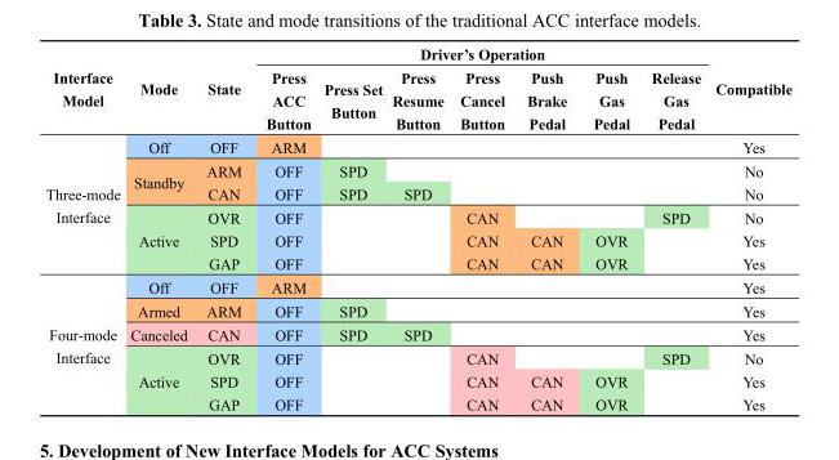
<table><thead><tr><td rowspan="2">Interface Model</td><td rowspan="2">Mode</td><td rowspan="2">State</td><td colspan="7">Driver’s Operation</td><td rowspan="2">Compatible</td></tr><tr><td>Press ACC Button</td><td>Press Set Button</td><td>Press Resume Button</td><td>Press Cancel Button</td><td>Push Brake Pedal</td><td>Push Gas Pedal</td><td>Release Gas Pedal</td></tr></thead><tbody><tr><td rowspan="6">Three-mode Interface</td><td>Off</td><td>OFF</td><td>ARM</td><td></td><td></td><td></td><td></td><td></td><td></td><td>Yes</td></tr><tr><td rowspan="2">Standby</td><td>ARM</td><td>OFF</td><td>SPD</td><td></td><td></td><td></td><td></td><td></td><td>No</td></tr><tr><td>CAN</td><td>OFF</td><td>SPD</td><td>SPD</td><td></td><td></td><td></td><td></td><td>No</td></tr><tr><td rowspan="3">Active</td><td>OVR</td><td>OFF</td><td></td><td></td><td>CAN</td><td></td><td></td><td>SPD</td><td>No</td></tr><tr><td>SPD</td><td>OFF</td><td></td><td></td><td>CAN</td><td>CAN</td><td>OVR</td><td></td><td>Yes</td></tr><tr><td>GAP</td><td>OFF</td><td></td><td></td><td>CAN</td><td>CAN</td><td>OVR</td><td></td><td>Yes</td></tr><tr><td rowspan="6">Four-mode Interface</td><td>Off</td><td>OFF</td><td>ARM</td><td></td><td></td><td></td><td></td><td></td><td></td><td>Yes</td></tr><tr><td>Armed</td><td>ARM</td><td>OFF</td><td>SPD</td><td></td><td></td><td></td><td></td><td></td><td>Yes</td></tr><tr><td>Canceled</td><td>CAN</td><td>OFF</td><td>SPD</td><td>SPD</td><td></td><td></td><td></td><td></td><td>Yes</td></tr><tr><td rowspan="3">Active</td><td>OVR</td><td>OFF</td><td></td><td></td><td>CAN</td><td></td><td></td><td>SPD</td><td>No</td></tr><tr><td>SPD</td><td>OFF</td><td></td><td></td><td>CAN</td><td>CAN</td><td>OVR</td><td></td><td>Yes</td></tr><tr><td>GAP</td><td>OFF</td><td></td><td></td><td>CAN</td><td>CAN</td><td>OVR</td><td></td><td>Yes</td></tr></tbody></table>